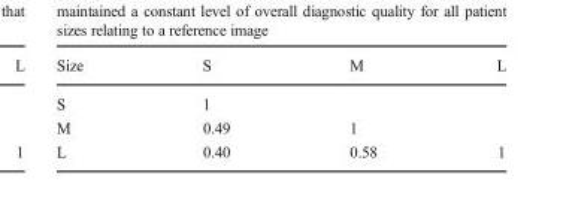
<table><thead><tr><td>Size</td><td>S</td><td>M</td><td>L</td></tr></thead><tbody><tr><td>S</td><td>1</td><td></td><td></td></tr><tr><td>M</td><td>0.49</td><td>1</td><td></td></tr><tr><td>L</td><td>0.40</td><td>0.58</td><td>1</td></tr></tbody></table>